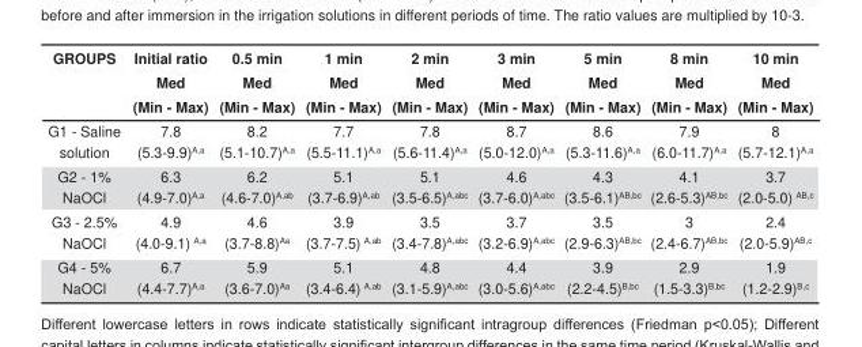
<table><thead><tr><td rowspan="3">GROUPS</td><td rowspan="3">Initial ratio Med (Min - Max)</td><td rowspan="3">0.5 min Med (Min - Max)</td><td rowspan="3">1 min Med (Min - Max)</td><td rowspan="3">2 min Med (Min - Max)</td><td rowspan="3">3 min Med (Min - Max)</td><td rowspan="3">5 min Med (Min - Max)</td><td rowspan="3">8 min Med (Min - Max)</td><td rowspan="3">10 min Med (Min - Max)</td></tr><tr></tr><tr></tr></thead><tbody><tr><td>G1 - Saline solution</td><td>7.8 (5.3-9.9)<sup>A,a</sup></td><td>8.2 (5.1-10.7)<sup>A,a</sup></td><td>7.7 (5.5-11.1)<sup>A,a</sup></td><td>7.8 (5.6-11.4)<sup>A,a</sup></td><td>8.7 (5.0-12.0)<sup>A,a</sup></td><td>8.6 (5.3-11.6)<sup>A,a</sup></td><td>7.9 (6.0-11.7)<sup>A,a</sup></td><td>8 (5.7-12.1)<sup>A,a</sup></td></tr><tr><td>G2 - 1% NaOCl</td><td>6.3 (4.9-7.0)<sup>A,a</sup></td><td>6.2 (4.6-7.0)<sup>A,ab</sup></td><td>5.1 (3.7-6.9)<sup>A,ab</sup></td><td>5.1 (3.5-6.5)<sup>A,abc</sup></td><td>4.6 (3.7-6.0)<sup>A,abc</sup></td><td>4.3 (3.5-6.1)<sup>AB,bc</sup></td><td>4.1 (2.6-5.3)<sup>AB,bc</sup></td><td>3.7 (2.0-5.0) <sup>AB,c</sup></td></tr><tr><td>G3 - 2.5% NaOCl</td><td>4.9 (4.0-9.1) <sup>A,a</sup></td><td>4.6 (3.7-8.8)<sup>Aa</sup></td><td>3.9 (3.7-7.5) <sup>A,ab</sup></td><td>3.5 (3.4-7.8)<sup>A,abc</sup></td><td>3.7 (3.2-6.9)<sup>A,abc</sup></td><td>3.5 (2.9-6.3)<sup>AB,bc</sup></td><td>3 (2.4-6.7)<sup>AB,bc</sup></td><td>2.4 (2.0-5.9)<sup>AB,c</sup></td></tr><tr><td>G4 - 5% NaOCl</td><td>6.7 (4.4-7.7)<sup>A,a</sup></td><td>5.9 (3.6-7.0)<sup>Aa</sup></td><td>5.1 (3.4-6.4) <sup>A,ab</sup></td><td>4.8 (3.1-5.9)<sup>A,abc</sup></td><td>4.4 (3.0-5.6)<sup>A,abc</sup></td><td>3.9 (2.2-4.5)<sup>B,bc</sup></td><td>2.9 (1.5-3.3)<sup>B,bc</sup></td><td>1.9 (1.2-2.9)<sup>B,c</sup></td></tr></tbody></table>